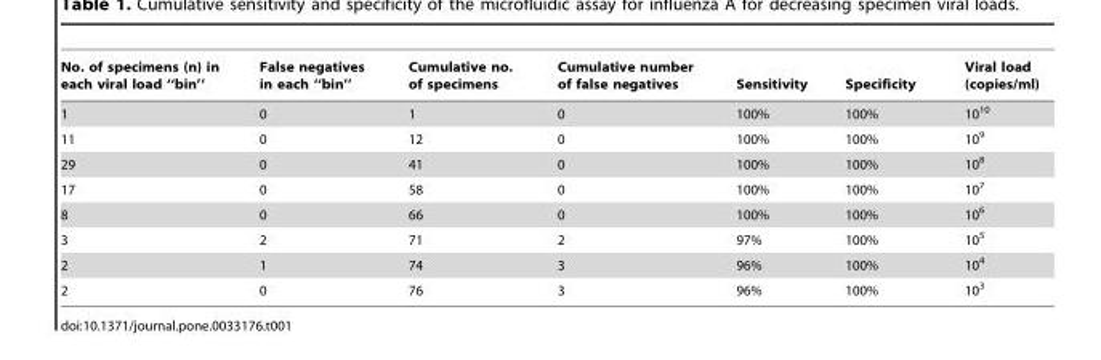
<table><thead><tr><td>No. of specimens (n) in each viral load ‘‘bin’’</td><td>False negatives in each ‘‘bin’’</td><td>Cumulative no. of specimens</td><td>Cumulative number of false negatives</td><td>Sensitivity</td><td>Specificity</td><td>Viral load (copies/ml)</td></tr></thead><tbody><tr><td>1</td><td>0</td><td>1</td><td>0</td><td>100%</td><td>100%</td><td>10<sup>10</sup></td></tr><tr><td>11</td><td>0</td><td>12</td><td>0</td><td>100%</td><td>100%</td><td>10<sup>9</sup></td></tr><tr><td>29</td><td>0</td><td>41</td><td>0</td><td>100%</td><td>100%</td><td>10<sup>8</sup></td></tr><tr><td>17</td><td>0</td><td>58</td><td>0</td><td>100%</td><td>100%</td><td>10<sup>7</sup></td></tr><tr><td>8</td><td>0</td><td>66</td><td>0</td><td>100%</td><td>100%</td><td>10<sup>6</sup></td></tr><tr><td>3</td><td>2</td><td>71</td><td>2</td><td>97%</td><td>100%</td><td>10<sup>5</sup></td></tr><tr><td>2</td><td>1</td><td>74</td><td>3</td><td>96%</td><td>100%</td><td>10<sup>4</sup></td></tr><tr><td>2</td><td>0</td><td>76</td><td>3</td><td>96%</td><td>100%</td><td>10<sup>3</sup></td></tr></tbody></table>